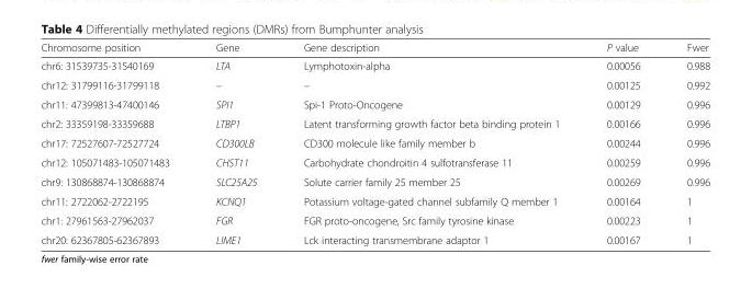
<table><thead><tr><td>Chromosome position</td><td>Gene</td><td>Gene description</td><td>P value</td><td>Fwer</td></tr></thead><tbody><tr><td>chr6: 31539735-31540169</td><td>LTA</td><td>Lymphotoxin-alpha</td><td>0.00056</td><td>0.988</td></tr><tr><td>chr12: 31799116-31799118</td><td>–</td><td>–</td><td>0.00125</td><td>0.992</td></tr><tr><td>chr11: 47399813-47400146</td><td>SPI1</td><td>Spi-1 Proto-Oncogene</td><td>0.00129</td><td>0.996</td></tr><tr><td>chr2: 33359198-33359688</td><td>LTBP1</td><td>Latent transforming growth factor beta binding protein 1</td><td>0.00166</td><td>0.996</td></tr><tr><td>chr17: 72527607-72527724</td><td>CD300LB</td><td>CD300 molecule like family member b</td><td>0.00244</td><td>0.996</td></tr><tr><td>chr12: 105071483-105071483</td><td>CHST11</td><td>Carbohydrate chondroitin 4 sulfotransferase 11</td><td>0.00259</td><td>0.996</td></tr><tr><td>chr9: 130868874-130868874</td><td>SLC25A25</td><td>Solute carrier family 25 member 25</td><td>0.00269</td><td>0.996</td></tr><tr><td>chr11: 2722062-2722195</td><td>KCNQ1</td><td>Potassium voltage-gated channel subfamily Q member 1</td><td>0.00164</td><td>1</td></tr><tr><td>chr1: 27961563-27962037</td><td>FGR</td><td>FGR proto-oncogene, Src family tyrosine kinase</td><td>0.00223</td><td>1</td></tr><tr><td>chr20: 62367805-62367893</td><td>LIME1</td><td>Lck interacting transmembrane adaptor 1</td><td>0.00167</td><td>1</td></tr></tbody></table>